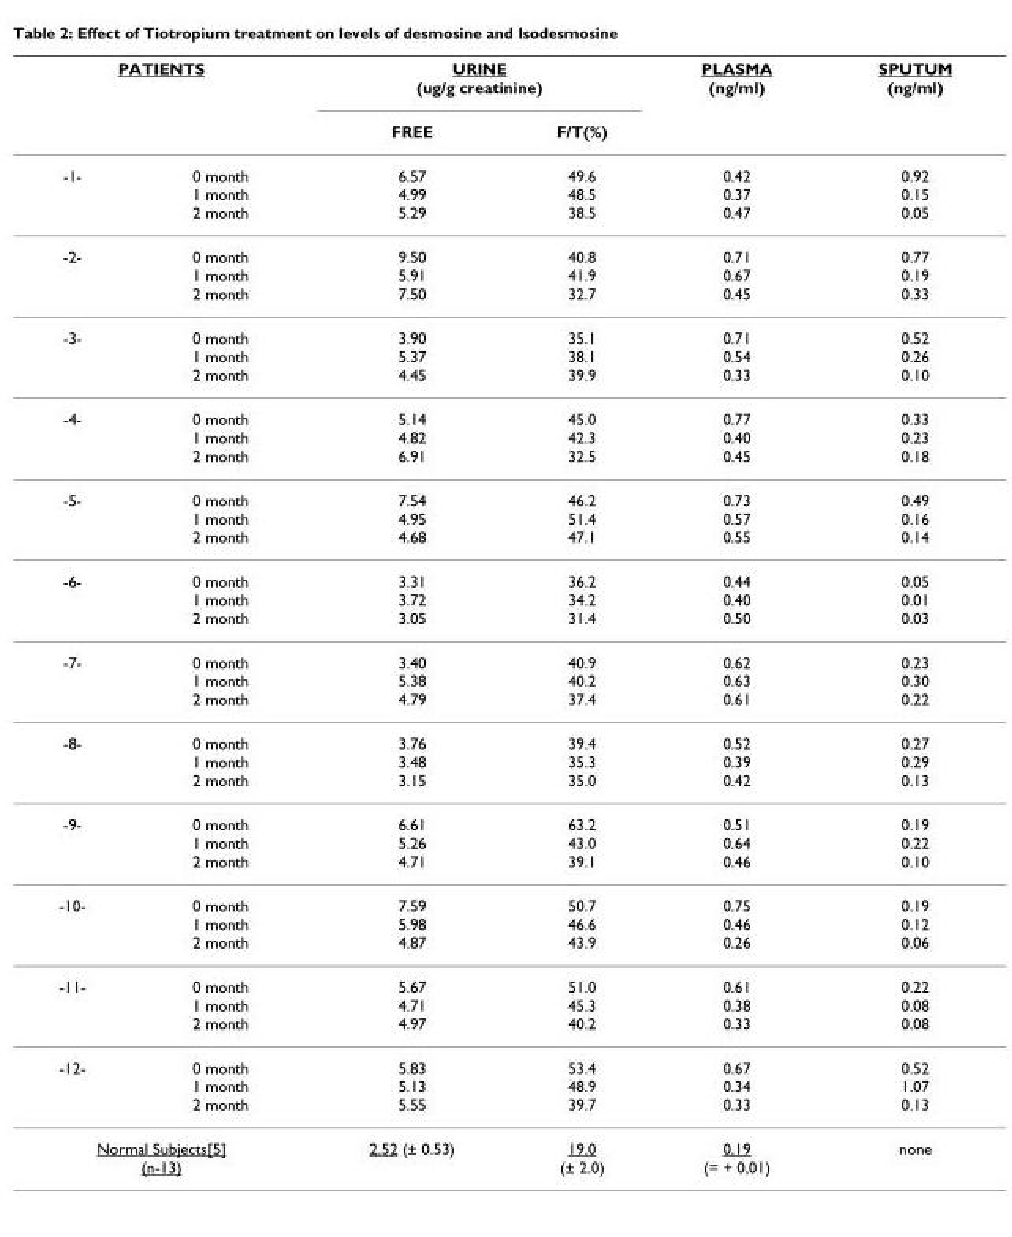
<table><thead><tr><td colspan="2">PATIENTS</td><td colspan="2">URINE (ug/g creatinine)</td><td rowspan="2">PLASMA (ng/ml)</td><td rowspan="2">SPUTUM (ng/ml)</td></tr><tr><td></td><td></td><td>FREE</td><td>F/T(%)</td></tr></thead><tbody><tr><td>-1-</td><td>0 month 1 month 2 month</td><td>6.57 4.99 5.29</td><td>49.6 48.5 38.5</td><td>0.42 0.37 0.47</td><td>0.92 0.15 0.05</td></tr><tr><td>-2-</td><td>0 month 1 month 2 month</td><td>9.50 5.91 7.50</td><td>40.8 41.9 32.7</td><td>0.71 0.67 0.45</td><td>0.77 0.19 0.33</td></tr><tr><td>-3-</td><td>0 month 1 month 2 month</td><td>3.90 5.37 4.45</td><td>35.1 38.1 39.9</td><td>0.71 0.54 0.33</td><td>0.52 0.26 0.10</td></tr><tr><td>-4-</td><td>0 month 1 month 2 month</td><td>5.14 4.82 6.91</td><td>45.0 42.3 32.5</td><td>0.77 0.40 0.45</td><td>0.33 0.23 0.18</td></tr><tr><td>-5-</td><td>0 month 1 month 2 month</td><td>7.54 4.95 4.68</td><td>46.2 51.4 47.1</td><td>0.73 0.57 0.55</td><td>0.49 0.16 0.14</td></tr><tr><td>-6-</td><td>0 month 1 month 2 month</td><td>3.31 3.72 3.05</td><td>36.2 34.2 31.4</td><td>0.44 0.40 0.50</td><td>0.05 0.01 0.03</td></tr><tr><td>-7-</td><td>0 month 1 month 2 month</td><td>3.40 5.38 4.79</td><td>40.9 40.2 37.4</td><td>0.62 0.63 0.61</td><td>0.23 0.30 0.22</td></tr><tr><td>-8-</td><td>0 month 1 month 2 month</td><td>3.76 3.48 3.15</td><td>39.4 35.3 35.0</td><td>0.52 0.39 0.42</td><td>0.27 0.29 0.13</td></tr><tr><td>-9-</td><td>0 month 1 month 2 month</td><td>6.61 5.26 4.71</td><td>63.2 43.0 39.1</td><td>0.51 0.64 0.46</td><td>0.19 0.22 0.10</td></tr><tr><td>-10-</td><td>0 month 1 month 2 month</td><td>7.59 5.98 4.87</td><td>50.7 46.6 43.9</td><td>0.75 0.46 0.26</td><td>0.19 0.12 0.06</td></tr><tr><td>-11-</td><td>0 month 1 month 2 month</td><td>5.67 4.71 4.97</td><td>51.0 45.3 40.2</td><td>0.61 0.38 0.33</td><td>0.22 0.08 0.08</td></tr><tr><td>-12-</td><td>0 month 1 month 2 month</td><td>5.83 5.13 5.55</td><td>53.4 48.9 39.7</td><td>0.67 0.34 0.33</td><td>0.52 1.07 0.13</td></tr><tr><td colspan="2">Normal Subjects[5] (n-13)</td><td>2.52 (± 0.53)</td><td>19.0 (± 2.0)</td><td>0.19 (= + 0,01)</td><td>none</td></tr></tbody></table>